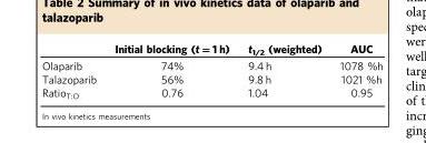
<table><thead><tr><td></td><td>Initial blocking (t = 1 h)</td><td>t<sub>1/2</sub> (weighted)</td><td>AUC</td></tr></thead><tbody><tr><td>Olaparib</td><td>74%</td><td>9.4 h</td><td>1078 %h</td></tr><tr><td>Talazoparib</td><td>56%</td><td>9.8 h</td><td>1021 %h</td></tr><tr><td>Ratio<sub>T:O</sub></td><td>0.76</td><td>1.04</td><td>0.95</td></tr></tbody></table>